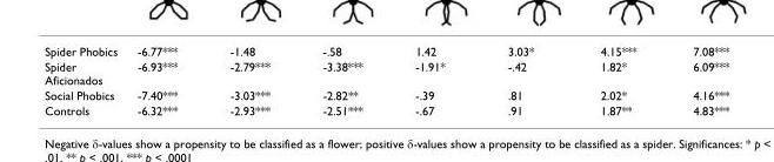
<table><tbody><tr><td>Spider Phobics</td><td>-6.77***</td><td>-1.48</td><td>-.58</td><td>1.42</td><td>3.03*</td><td>4.15***</td><td>7.08***</td></tr><tr><td>Spider Aficionados</td><td>-6.93***</td><td>-2.79***</td><td>-3.38***</td><td>-1.91*</td><td>-.42</td><td>1.82*</td><td>6.09***</td></tr><tr><td>Social Phobics</td><td>-7.40***</td><td>-3.03***</td><td>-2.82**</td><td>-.39</td><td>.81</td><td>2.02*</td><td>4.16***</td></tr><tr><td>Controls</td><td>-6.32***</td><td>-2.93***</td><td>-2.51***</td><td>-.67</td><td>.91</td><td>1.87**</td><td>4.83***</td></tr></tbody></table>